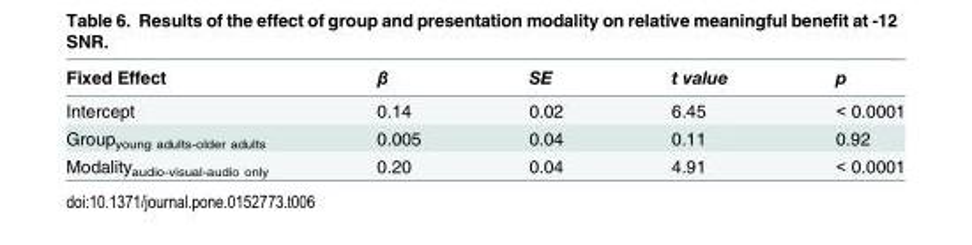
<table><thead><tr><td>Fixed Effect</td><td>β</td><td>SE</td><td>t value</td><td>p</td></tr></thead><tbody><tr><td>Intercept</td><td>0.14</td><td>0.02</td><td>6.45</td><td>&lt; 0.0001</td></tr><tr><td>Group<sub>young adults-older adults</sub></td><td>0.005</td><td>0.04</td><td>0.11</td><td>0.92</td></tr><tr><td>Modality<sub>audio-visual-audio only</sub></td><td>0.20</td><td>0.04</td><td>4.91</td><td>&lt; 0.0001</td></tr></tbody></table>